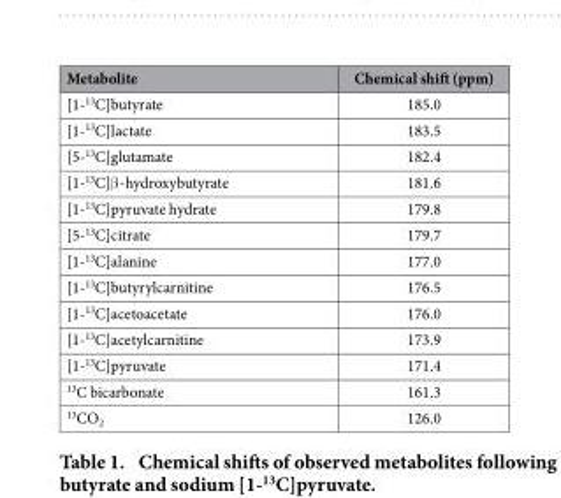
<table><thead><tr><td>Metabolite</td><td>Chemical shift (ppm)</td></tr></thead><tbody><tr><td>[1-<sup>13</sup>C]butyrate</td><td>185.0</td></tr><tr><td>[1-<sup>13</sup>C]lactate</td><td>183.5</td></tr><tr><td>[5-<sup>13</sup>C]glutamate</td><td>182.4</td></tr><tr><td>[1-<sup>13</sup>C]β -hydroxybutyrate</td><td>181.6</td></tr><tr><td>[1-<sup>13</sup>C]pyruvate hydrate</td><td>179.8</td></tr><tr><td>[5-<sup>13</sup>C]citrate</td><td>179.7</td></tr><tr><td>[1-<sup>13</sup>C]alanine</td><td>177.0</td></tr><tr><td>[1-<sup>13</sup>C]butyrylcarnitine</td><td>176.5</td></tr><tr><td>[1-<sup>13</sup>C]acetoacetate</td><td>176.0</td></tr><tr><td>[1-<sup>13</sup>C]acetylcarnitine</td><td>173.9</td></tr><tr><td>[1-<sup>13</sup>C]pyruvate</td><td>171.4</td></tr><tr><td><sup>13</sup>C bicarbonate</td><td>161.3</td></tr><tr><td><sup>13</sup>CO<sub>2</sub></td><td>126.0</td></tr></tbody></table>